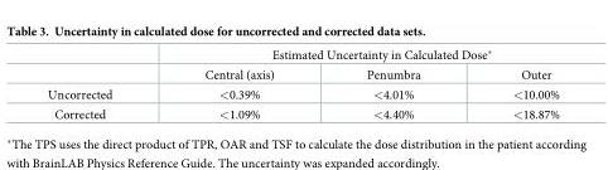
<table><thead><tr><td rowspan="2"></td><td colspan="3">Estimated Uncertainty in Calculated Dose*</td></tr><tr><td>Central (axis)</td><td>Penumbra</td><td>Outer</td></tr></thead><tbody><tr><td>Uncorrected</td><td>&lt;0.39%</td><td>&lt;4.01%</td><td>&lt;10.00%</td></tr><tr><td>Corrected</td><td>&lt;1.09%</td><td>&lt;4.40%</td><td>&lt;18.87%</td></tr></tbody></table>